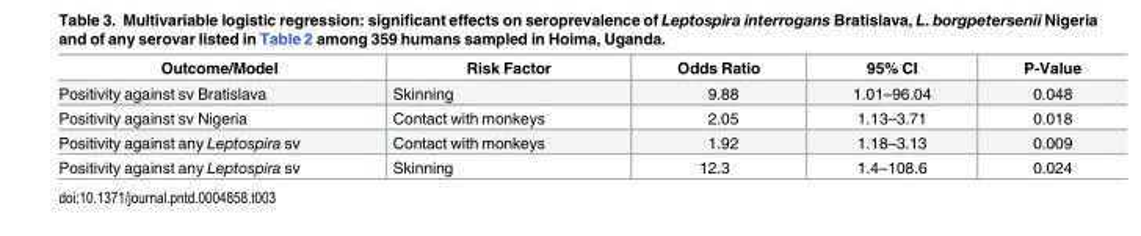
<table><thead><tr><td>Outcome/Model</td><td>Risk Factor</td><td>Odds Ratio</td><td>95% CI</td><td>P-Value</td></tr></thead><tbody><tr><td>Positivity against sv Bratislava</td><td>Skinning</td><td>9.88</td><td>1.01–96.04</td><td>0.048</td></tr><tr><td>Positivity against sv Nigeria</td><td>Contact with monkeys</td><td>2.05</td><td>1.13–3.71</td><td>0.018</td></tr><tr><td>Positivity against any Leptospira sv</td><td>Contact with monkeys</td><td>1.92</td><td>1.18–3.13</td><td>0.009</td></tr><tr><td>Positivity against any Leptospira sv</td><td>Skinning</td><td>12.3</td><td>1.4–108.6</td><td>0.024</td></tr></tbody></table>